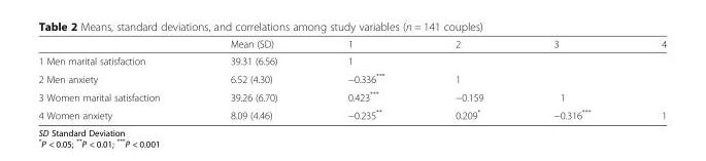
<table><thead><tr><td></td><td>Mean (SD)</td><td>1</td><td>2</td><td>3</td><td>4</td></tr></thead><tbody><tr><td>1 Men marital satisfaction</td><td>39.31 (6.56)</td><td>1</td><td></td><td></td><td></td></tr><tr><td>2 Men anxiety</td><td>6.52 (4.30)</td><td>−0.336***</td><td>1</td><td></td><td></td></tr><tr><td>3 Women marital satisfaction</td><td>39.26 (6.70)</td><td>0.423***</td><td>−0.159</td><td>1</td><td></td></tr><tr><td>4 Women anxiety</td><td>8.09 (4.46)</td><td>−0.235**</td><td>0.209*</td><td>−0.316***</td><td>1</td></tr></tbody></table>